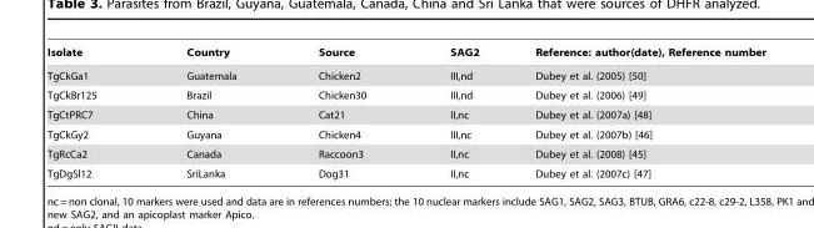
<table><thead><tr><td>Isolate</td><td>Country</td><td>Source</td><td>SAG2</td><td>Reference: author(date), Reference number</td></tr></thead><tbody><tr><td>TgCkGa1</td><td>Guatemala</td><td>Chicken2</td><td>III,nd</td><td>Dubey et al. (2005) [50]</td></tr><tr><td>TgCkBr125</td><td>Brazil</td><td>Chicken30</td><td>III,nd</td><td>Dubey et al. (2006) [49]</td></tr><tr><td>TgCtPRC7</td><td>China</td><td>Cat21</td><td>II,nc</td><td>Dubey et al. (2007a) [48]</td></tr><tr><td>TgCkGy2</td><td>Guyana</td><td>Chicken4</td><td>III,nc</td><td>Dubey et al. (2007b) [46]</td></tr><tr><td>TgRcCa2</td><td>Canada</td><td>Raccoon3</td><td>II,nc</td><td>Dubey et al. (2008) [45]</td></tr><tr><td>TgDgSl12</td><td>SriLanka</td><td>Dog31</td><td>II,nc</td><td>Dubey et al. (2007c) [47]</td></tr></tbody></table>